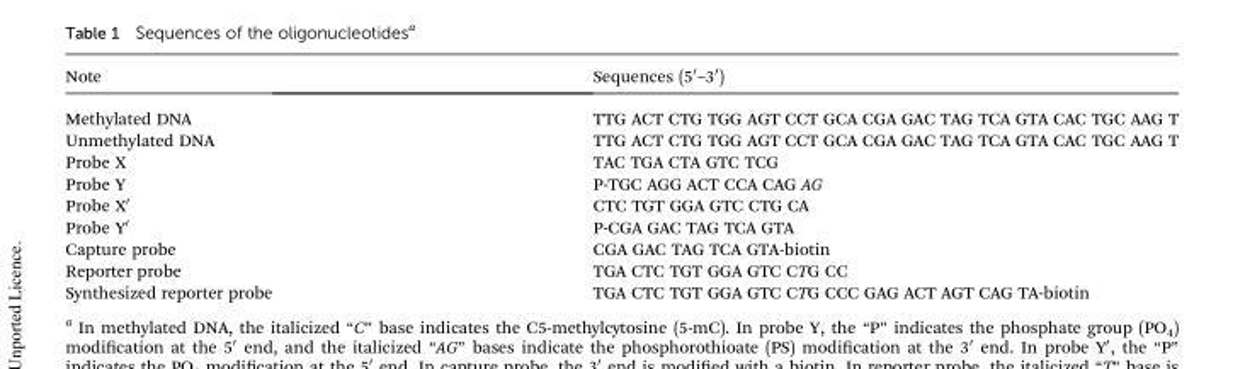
<table><thead><tr><td>Note</td><td>Sequences (5′–3′)</td></tr></thead><tbody><tr><td>Methylated DNA</td><td>TTG ACT CTG TGG AGT CCT GCA CGA GAC TAG TCA GTA CAC TGC AAG T</td></tr><tr><td>Unmethylated DNA</td><td>TTG ACT CTG TGG AGT CCT GCA CGA GAC TAG TCA GTA CAC TGC AAG T</td></tr><tr><td>Probe X</td><td>TAC TGA CTA GTC TCG</td></tr><tr><td>Probe Y</td><td>P-TGC AGG ACT CCA CAG AG</td></tr><tr><td>Probe X′</td><td>CTC TGT GGA GTC CTG CA</td></tr><tr><td>Probe Y′</td><td>P-CGA GAC TAG TCA GTA</td></tr><tr><td>Capture probe</td><td>CGA GAC TAG TCA GTA-biotin</td></tr><tr><td>Reporter probe</td><td>TGA CTC TGT GGA GTC CTG CC</td></tr><tr><td>Synthesized reporter probe</td><td>TGA CTC TGT GGA GTC CTG CCC GAG ACT AGT CAG TA-biotin</td></tr></tbody></table>